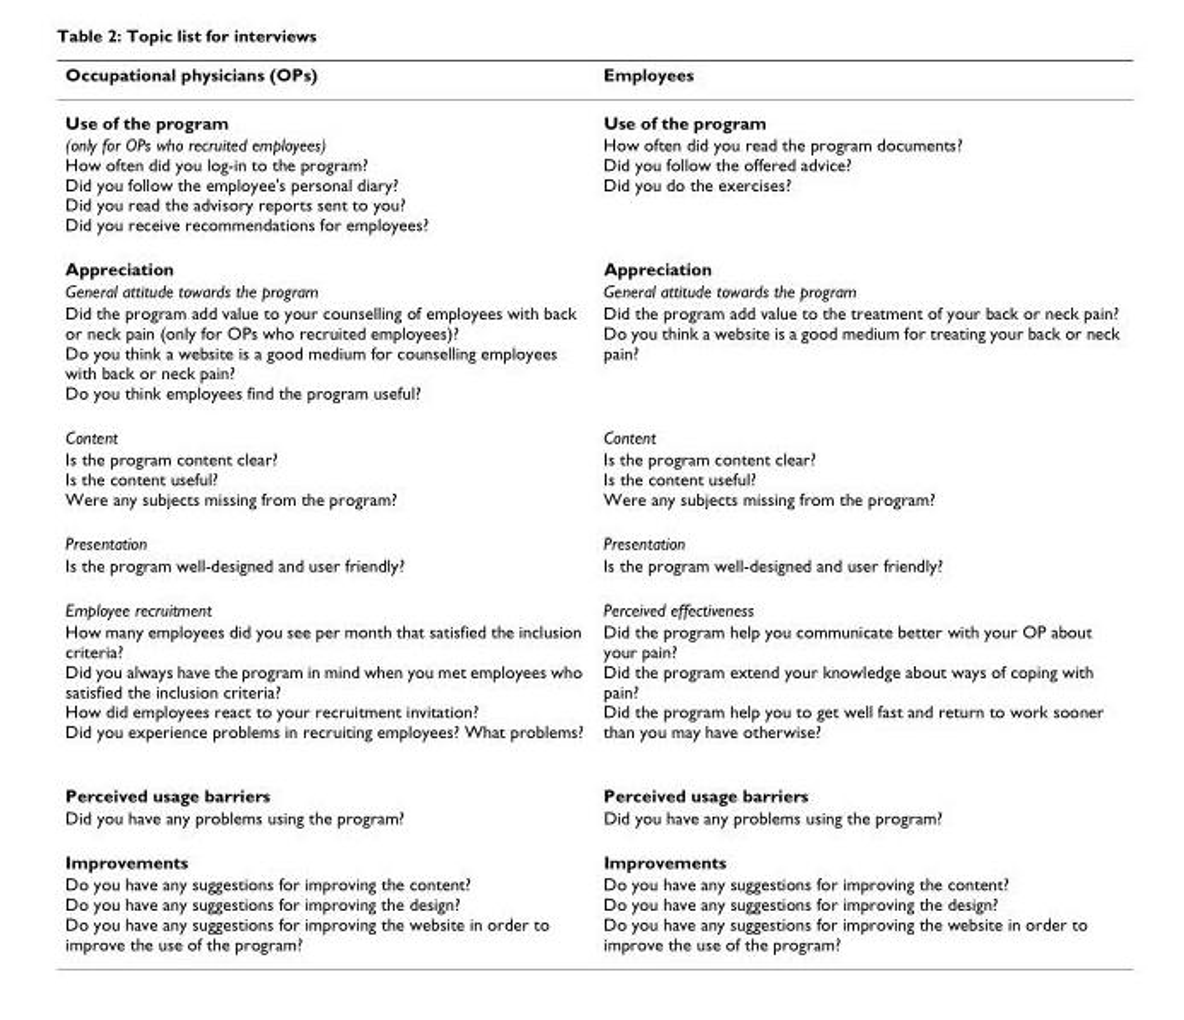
<table><thead><tr><td>Occupational physicians (OPs)</td><td>Employees</td></tr></thead><tbody><tr><td>Use of the program</td><td>Use of the program</td></tr><tr><td>(only for OPs who recruited employees) How often did you log-in to the program? Did you follow the employee&#x27;s personal diary? Did you read the advisory reports sent to you? Did you receive recommendations for employees?</td><td>How often did you read the program documents? Did you follow the offered advice? Did you do the exercises?</td></tr><tr><td>Appreciation</td><td>Appreciation</td></tr><tr><td>General attitude towards the program</td><td>General attitude towards the program</td></tr><tr><td>Did the program add value to your counselling of employees with back or neck pain (only for OPs who recruited employees)? Do you think a website is a good medium for counselling employees with back or neck pain? Do you think employees find the program useful?</td><td>Did the program add value to the treatment of your back or neck pain? Do you think a website is a good medium for treating your back or neck pain?</td></tr><tr><td>Content</td><td>Content</td></tr><tr><td>Is the program content clear? Is the content useful? Were any subjects missing from the program?</td><td>Is the program content clear? Is the content useful? Were any subjects missing from the program?</td></tr><tr><td>Presentation</td><td>Presentation</td></tr><tr><td>Is the program well-designed and user friendly?</td><td>Is the program well-designed and user friendly?</td></tr><tr><td>Employee recruitment</td><td>Perceived effectiveness</td></tr><tr><td>How many employees did you see per month that satisfied the inclusion criteria? Did you always have the program in mind when you met employees who satisfied the inclusion criteria? How did employees react to your recruitment invitation? Did you experience problems in recruiting employees? What problems?</td><td>Did the program help you communicate better with your OP about your pain? Did the program extend your knowledge about ways of coping with pain? Did the program help you to get well fast and return to work sooner than you may have otherwise?</td></tr><tr><td>Perceived usage barriers</td><td>Perceived usage barriers</td></tr><tr><td>Did you have any problems using the program?</td><td>Did you have any problems using the program?</td></tr><tr><td>Improvements</td><td>Improvements</td></tr><tr><td>Do you have any suggestions for improving the content? Do you have any suggestions for improving the design? Do you have any suggestions for improving the website in order to improve the use of the program?</td><td>Do you have any suggestions for improving the content? Do you have any suggestions for improving the design? Do you have any suggestions for improving the website in order to improve the use of the program?</td></tr></tbody></table>